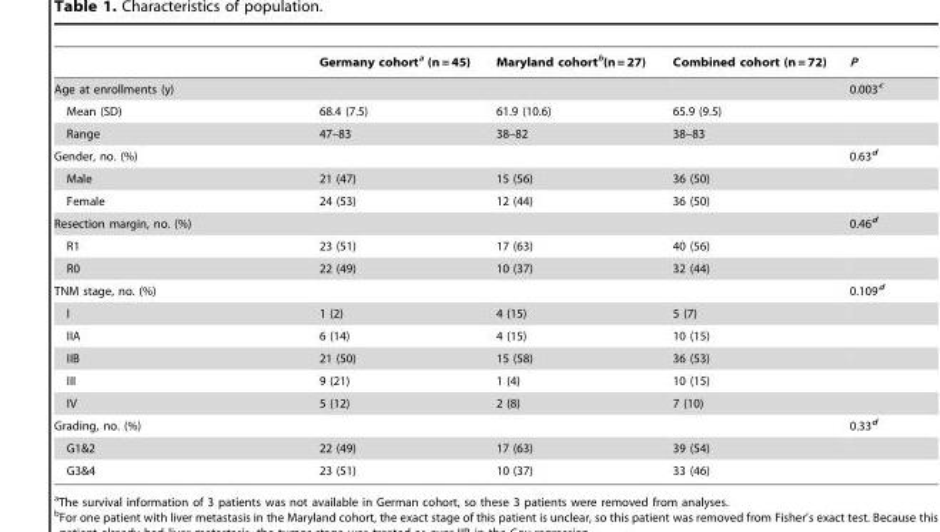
<table><thead><tr><td></td><td>Germany cohort<sup>a</sup> (n = 45)</td><td>Maryland cohort<sup>b</sup>(n = 27)</td><td>Combined cohort (n = 72)</td><td>P</td></tr></thead><tbody><tr><td>Age at enrollments (y)</td><td></td><td></td><td></td><td>0.003<sup>c</sup></td></tr><tr><td>Mean (SD)</td><td>68.4 (7.5)</td><td>61.9 (10.6)</td><td>65.9 (9.5)</td><td></td></tr><tr><td>Range</td><td>47–83</td><td>38–82</td><td>38–83</td><td></td></tr><tr><td>Gender, no. (%)</td><td></td><td></td><td></td><td>0.63<sup>d</sup></td></tr><tr><td>Male</td><td>21 (47)</td><td>15 (56)</td><td>36 (50)</td><td></td></tr><tr><td>Female</td><td>24 (53)</td><td>12 (44)</td><td>36 (50)</td><td></td></tr><tr><td>Resection margin, no. (%)</td><td></td><td></td><td></td><td>0.46<sup>d</sup></td></tr><tr><td>R1</td><td>23 (51)</td><td>17 (63)</td><td>40 (56)</td><td></td></tr><tr><td>R0</td><td>22 (49)</td><td>10 (37)</td><td>32 (44)</td><td></td></tr><tr><td>TNM stage, no. (%)</td><td></td><td></td><td></td><td>0.109<sup>d</sup></td></tr><tr><td>I</td><td>1 (2)</td><td>4 (15)</td><td>5 (7)</td><td></td></tr><tr><td>IIA</td><td>6 (14)</td><td>4 (15)</td><td>10 (15)</td><td></td></tr><tr><td>IIB</td><td>21 (50)</td><td>15 (58)</td><td>36 (53)</td><td></td></tr><tr><td>III</td><td>9 (21)</td><td>1 (4)</td><td>10 (15)</td><td></td></tr><tr><td>IV</td><td>5 (12)</td><td>2 (8)</td><td>7 (10)</td><td></td></tr><tr><td>Grading, no. (%)</td><td></td><td></td><td></td><td>0.33<sup>d</sup></td></tr><tr><td>G1&amp;2</td><td>22 (49)</td><td>17 (63)</td><td>39 (54)</td><td></td></tr><tr><td>G3&amp;4</td><td>23 (51)</td><td>10 (37)</td><td>33 (46)</td><td></td></tr></tbody></table>